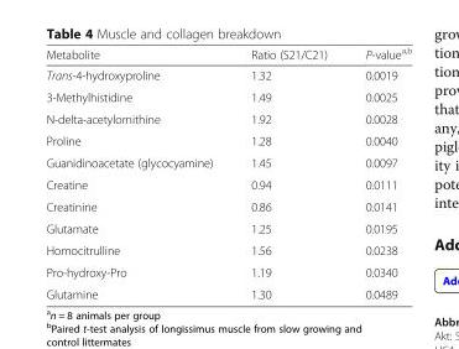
<table><thead><tr><td>Metabolite</td><td>Ratio (S21/C21)</td><td>P-value<sup>a,b</sup></td></tr></thead><tbody><tr><td>Trans-4-hydroxyproline</td><td>1.32</td><td>0.0019</td></tr><tr><td>3-Methylhistidine</td><td>1.49</td><td>0.0025</td></tr><tr><td>N-delta-acetylornithine</td><td>1.92</td><td>0.0028</td></tr><tr><td>Proline</td><td>1.28</td><td>0.0040</td></tr><tr><td>Guanidinoacetate (glycocyamine)</td><td>1.45</td><td>0.0097</td></tr><tr><td>Creatine</td><td>0.94</td><td>0.0111</td></tr><tr><td>Creatinine</td><td>0.86</td><td>0.0141</td></tr><tr><td>Glutamate</td><td>1.25</td><td>0.0195</td></tr><tr><td>Homocitrulline</td><td>1.56</td><td>0.0238</td></tr><tr><td>Pro-hydroxy-Pro</td><td>1.19</td><td>0.0340</td></tr><tr><td>Glutamine</td><td>1.30</td><td>0.0489</td></tr></tbody></table>